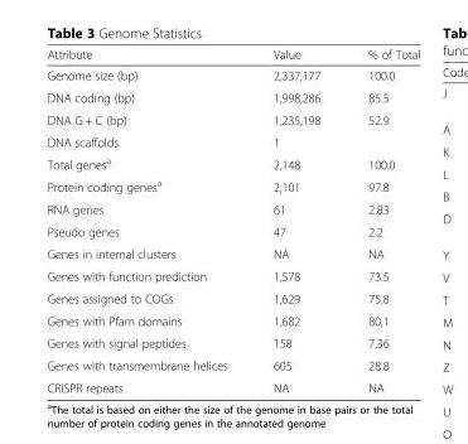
<table><thead><tr><td>Attribute</td><td>Value</td><td>% of Total</td></tr></thead><tbody><tr><td>Genome size (bp)</td><td>2,337,177</td><td>100.0</td></tr><tr><td>DNA coding (bp)</td><td>1,998,286.</td><td>85.5</td></tr><tr><td>DNA G + C (bp)</td><td>1,235,198</td><td>52.9</td></tr><tr><td>DNA scaffolds</td><td>1</td><td></td></tr><tr><td>Total genes<sup>a</sup></td><td>2,148</td><td>100.0</td></tr><tr><td>Protein coding genes<sup>a</sup></td><td>2,101</td><td>97.8</td></tr><tr><td>RNA genes</td><td>61</td><td>2.83</td></tr><tr><td>Pseudo genes</td><td>47</td><td>2.2</td></tr><tr><td>Genes in internal clusters</td><td>NA</td><td>NA</td></tr><tr><td>Genes with function prediction</td><td>1,578</td><td>73.5</td></tr><tr><td>Genes assigned to COGs</td><td>1,629</td><td>75.8</td></tr><tr><td>Genes with Pfam domains</td><td>1,682</td><td>80,1</td></tr><tr><td>Genes with signal peptides</td><td>158</td><td>7.36</td></tr><tr><td>Genes with transmembrane helices</td><td>605</td><td>28.8</td></tr><tr><td>CRISPR repeats</td><td>NA</td><td>NA</td></tr></tbody></table>